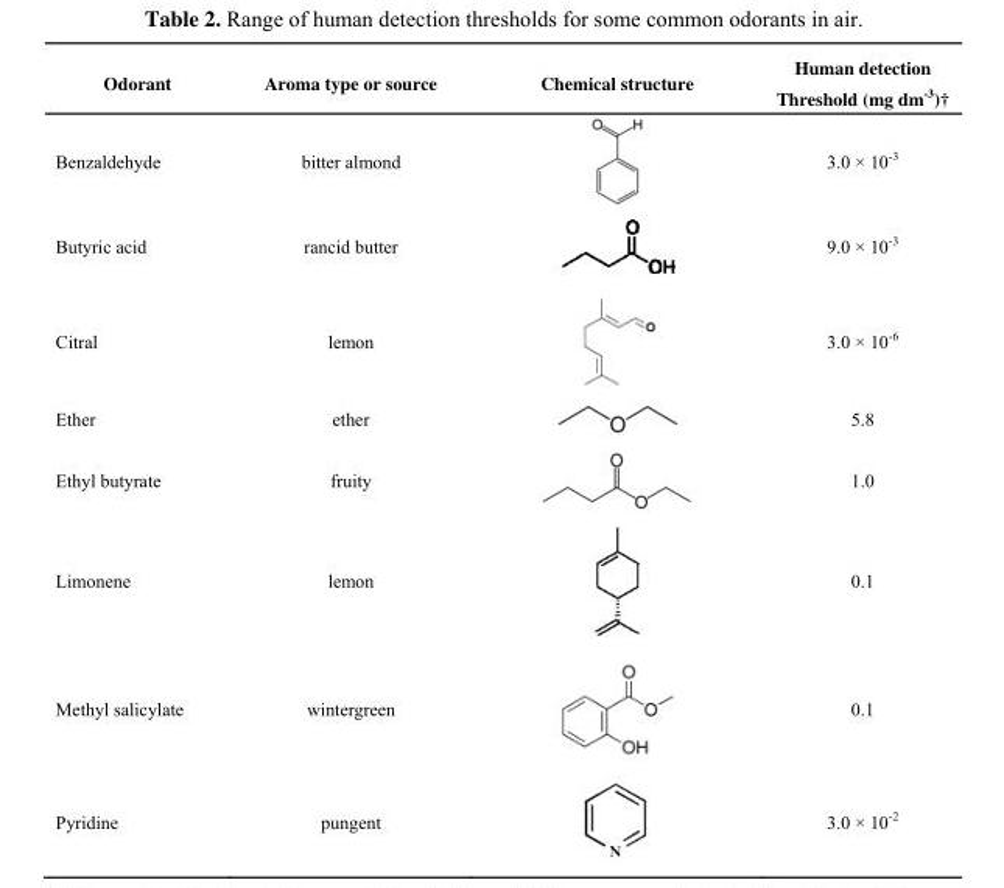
<table><thead><tr><td>Odorant</td><td>Aroma type or source</td><td>Chemical structure</td><td>Human detection Threshold (mg dm<sup>-3</sup>)†</td></tr></thead><tbody><tr><td>Benzaldehyde</td><td>bitter almond</td><td></td><td>3.0 × 10<sup>-3</sup></td></tr><tr><td>Butyric acid</td><td>rancid butter</td><td></td><td>9.0 × 10<sup>-3</sup></td></tr><tr><td>Citral</td><td>lemon</td><td></td><td>3.0 × 10<sup>-6</sup></td></tr><tr><td>Ether</td><td>ether</td><td></td><td>5.8</td></tr><tr><td>Ethyl butyrate</td><td>fruity</td><td></td><td>1.0</td></tr><tr><td>Limonene</td><td>lemon</td><td></td><td>0.1</td></tr><tr><td>Methyl salicylate</td><td>wintergreen</td><td></td><td>0.1</td></tr><tr><td>Pyridine</td><td>pungent</td><td></td><td>3.0 × 10<sup>-2</sup></td></tr></tbody></table>